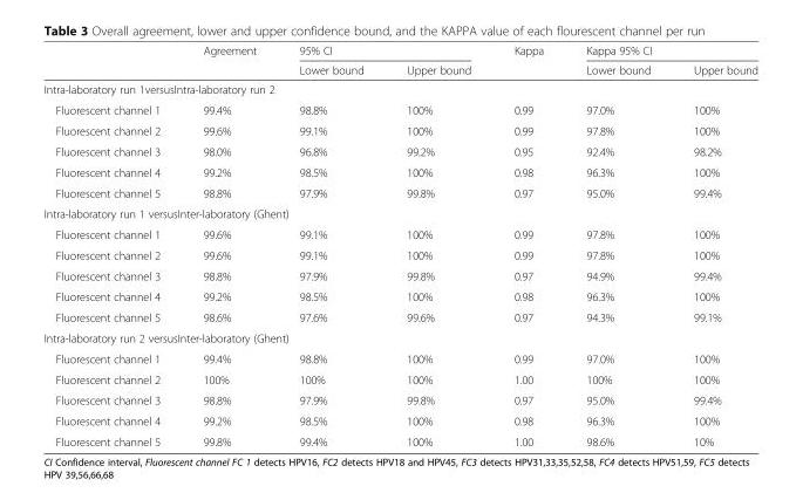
<table><thead><tr><td rowspan="2"></td><td rowspan="2">Agreement</td><td colspan="2">95% CI</td><td rowspan="2">Kappa</td><td colspan="2">Kappa 95% CI</td></tr><tr><td>Lower bound</td><td>Upper bound</td><td>Lower bound</td><td>Upper bound</td></tr></thead><tbody><tr><td colspan="7">Intra-laboratory run 1versusIntra-laboratory run 2</td></tr><tr><td>Fluorescent channel 1</td><td>99.4%</td><td>98.8%</td><td>100%</td><td>0.99</td><td>97.0%</td><td>100%</td></tr><tr><td>Fluorescent channel 2</td><td>99.6%</td><td>99.1%</td><td>100%</td><td>0.99</td><td>97.8%</td><td>100%</td></tr><tr><td>Fluorescent channel 3</td><td>98.0%</td><td>96.8%</td><td>99.2%</td><td>0.95</td><td>92.4%</td><td>98.2%</td></tr><tr><td>Fluorescent channel 4</td><td>99.2%</td><td>98.5%</td><td>100%</td><td>0.98</td><td>96.3%</td><td>100%</td></tr><tr><td>Fluorescent channel 5</td><td>98.8%</td><td>97.9%</td><td>99.8%</td><td>0.97</td><td>95.0%</td><td>99.4%</td></tr><tr><td colspan="7">Intra-laboratory run 1 versusInter-laboratory (Ghent)</td></tr><tr><td>Fluorescent channel 1</td><td>99.6%</td><td>99.1%</td><td>100%</td><td>0.99</td><td>97.8%</td><td>100%</td></tr><tr><td>Fluorescent channel 2</td><td>99.6%</td><td>99.1%</td><td>100%</td><td>0.99</td><td>97.8%</td><td>100%</td></tr><tr><td>Fluorescent channel 3</td><td>98.8%</td><td>97.9%</td><td>99.8%</td><td>0.97</td><td>94.9%</td><td>99.4%</td></tr><tr><td>Fluorescent channel 4</td><td>99.2%</td><td>98.5%</td><td>100%</td><td>0.98</td><td>96.3%</td><td>100%</td></tr><tr><td>Fluorescent channel 5</td><td>98.6%</td><td>97.6%</td><td>99.6%</td><td>0.97</td><td>94.3%</td><td>99.1%</td></tr><tr><td colspan="7">Intra-laboratory run 2 versusInter-laboratory (Ghent)</td></tr><tr><td>Fluorescent channel 1</td><td>99.4%</td><td>98.8%</td><td>100%</td><td>0.99</td><td>97.0%</td><td>100%</td></tr><tr><td>Fluorescent channel 2</td><td>100%</td><td>100%</td><td>100%</td><td>1.00</td><td>100%</td><td>100%</td></tr><tr><td>Fluorescent channel 3</td><td>98.8%</td><td>97.9%</td><td>99.8%</td><td>0.97</td><td>95.0%</td><td>99.4%</td></tr><tr><td>Fluorescent channel 4</td><td>99.2%</td><td>98.5%</td><td>100%</td><td>0.98</td><td>96.3%</td><td>100%</td></tr><tr><td>Fluorescent channel 5</td><td>99.8%</td><td>99.4%</td><td>100%</td><td>1.00</td><td>98.6%</td><td>10%</td></tr></tbody></table>